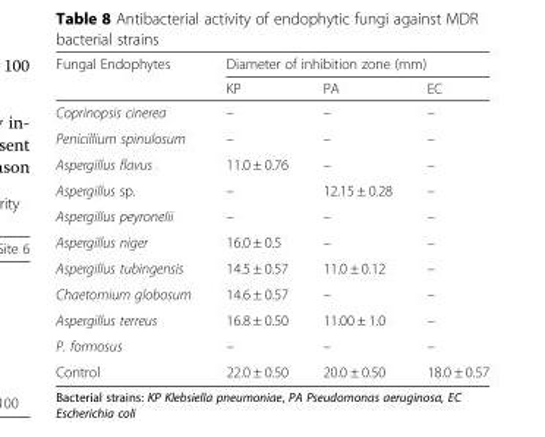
<table><thead><tr><td rowspan="2">Fungal Endophytes</td><td colspan="3">Diameter of inhibition zone (mm)</td></tr><tr><td>KP</td><td>PA</td><td>EC</td></tr></thead><tbody><tr><td>Coprinopsis cinerea</td><td>–</td><td>–</td><td>–</td></tr><tr><td>Penicillium spinulosum</td><td>–</td><td>–</td><td>–</td></tr><tr><td>Aspergillus flavus</td><td>11.0 ± 0.76</td><td>–</td><td>–</td></tr><tr><td>Aspergillus sp.</td><td>–</td><td>12.15 ± 0.28</td><td>–</td></tr><tr><td>Aspergillus peyronelii</td><td>–</td><td>–</td><td>–</td></tr><tr><td>Aspergillus niger</td><td>16.0 ± 0.5</td><td>–</td><td>–</td></tr><tr><td>Aspergillus tubingensis</td><td>14.5 ± 0.57</td><td>11.0 ± 0.12</td><td>–</td></tr><tr><td>Chaetomium globosum</td><td>14.6 ± 0.57</td><td>–</td><td>–</td></tr><tr><td>Aspergillus terreus</td><td>16.8 ± 0.50</td><td>11.00 ± 1.0</td><td>–</td></tr><tr><td>P. formosus</td><td>–</td><td>–</td><td>–</td></tr><tr><td>Control</td><td>22.0 ± 0.50</td><td>20.0 ± 0.50</td><td>18.0 ± 0.57</td></tr></tbody></table>